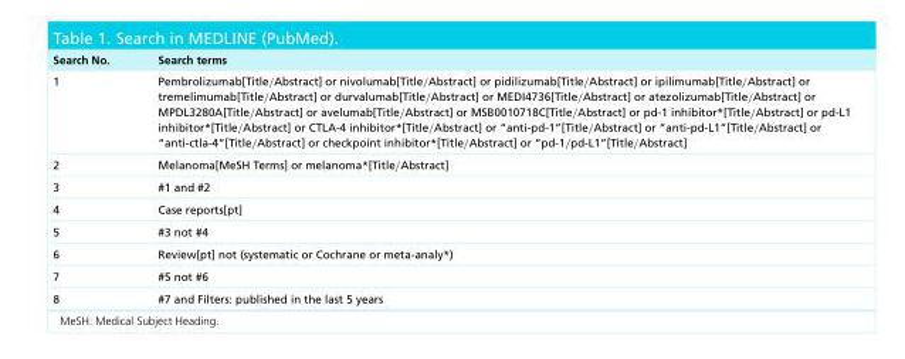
<table><thead><tr><td>Search No.</td><td>Search terms</td></tr></thead><tbody><tr><td>1</td><td>Pembrolizumab[Title/Abstract] or nivolumab[Title/Abstract] or pidilizumab[Title/Abstract] or ipilimumab[Title/Abstract] or tremelimumab[Title/Abstract] or durvalumab[Title/Abstract] or MEDI4736[Title/Abstract] or atezolizumab[Title/Abstract] or MPDL3280A[Title/Abstract] or avelumab[Title/Abstract] or MSB0010718C[Title/Abstract] or pd-1 inhibitor*[Title/Abstract] or pd-L1 inhibitor*[Title/Abstract] or CTLA-4 inhibitor*[Title/Abstract] or “anti-pd-1”[Title/Abstract] or “anti-pd-L1”[Title/Abstract] or “anti-ctla-4”[Title/Abstract] or checkpoint inhibitor*[Title/Abstract] or “pd-1/pd-L1”[Title/Abstract]</td></tr><tr><td>2</td><td>Melanoma[MeSH Terms] or melanoma*[Title/Abstract]</td></tr><tr><td>3</td><td>#1 and #2</td></tr><tr><td>4</td><td>Case reports[pt]</td></tr><tr><td>5</td><td>#3 not #4</td></tr><tr><td>6</td><td>Review[pt] not (systematic or Cochrane or meta-analy*)</td></tr><tr><td>7</td><td>#5 not #6</td></tr><tr><td>8</td><td>#7 and Filters: published in the last 5 years</td></tr></tbody></table>